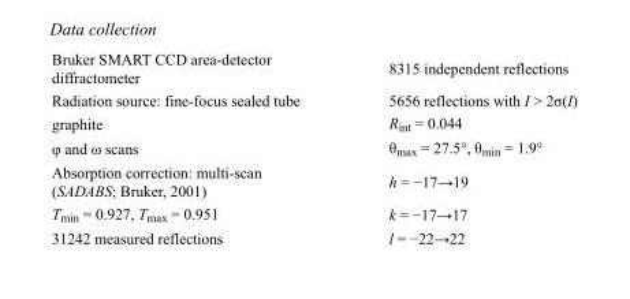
<table><tbody><tr><td>Bruker SMART CCD area-detector diffractometer</td><td>8315 independent reflections</td></tr><tr><td>Radiation source: fine-focus sealed tube</td><td>5656 reflections with I &gt; 2σ(I)</td></tr><tr><td>graphite</td><td>R<sub>int</sub> = 0.044</td></tr><tr><td>φ and ω scans</td><td>θ<sub>max</sub> = 27.5°, θ<sub>min</sub> = 1.9°</td></tr><tr><td>Absorption correction: multi-scan (SADABS; Bruker, 2001)</td><td>h = −17→19</td></tr><tr><td>T<sub>min</sub> = 0.927, T<sub>max</sub> = 0.951</td><td>k = −17→17</td></tr><tr><td>31242 measured reflections</td><td>l = −22→22</td></tr></tbody></table>